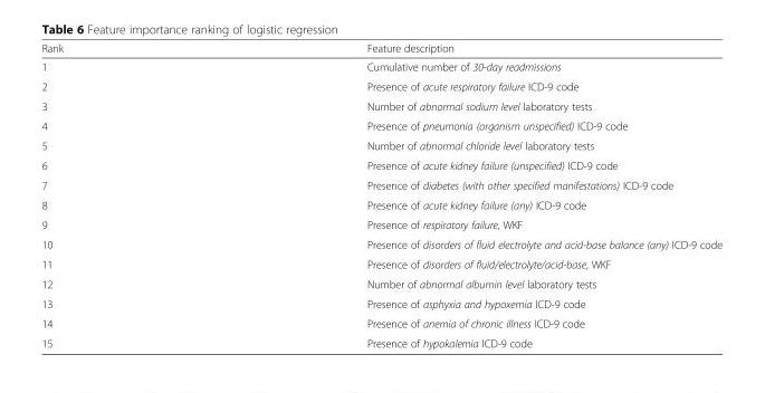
<table><thead><tr><td>Rank</td><td>Feature description</td></tr></thead><tbody><tr><td>1</td><td>Cumulative number of 30-day readmissions</td></tr><tr><td>2</td><td>Presence of acute respiratory failure ICD-9 code</td></tr><tr><td>3</td><td>Number of abnormal sodium level laboratory tests</td></tr><tr><td>4</td><td>Presence of pneumonia (organism unspecified) ICD-9 code</td></tr><tr><td>5</td><td>Number of abnormal chloride level laboratory tests</td></tr><tr><td>6</td><td>Presence of acute kidney failure (unspecified) ICD-9 code</td></tr><tr><td>7</td><td>Presence of diabetes (with other specified manifestations) ICD-9 code</td></tr><tr><td>8</td><td>Presence of acute kidney failure (any) ICD-9 code</td></tr><tr><td>9</td><td>Presence of respiratory failure, WKF</td></tr><tr><td>10</td><td>Presence of disorders of fluid electrolyte and acid-base balance (any) ICD-9 code</td></tr><tr><td>11</td><td>Presence of disorders of fluid/electrolyte/acid-base, WKF</td></tr><tr><td>12</td><td>Number of abnormal albumin level laboratory tests</td></tr><tr><td>13</td><td>Presence of asphyxia and hypoxemia ICD-9 code</td></tr><tr><td>14</td><td>Presence of anemia of chronic illness ICD-9 code</td></tr><tr><td>15</td><td>Presence of hypokalemia ICD-9 code</td></tr></tbody></table>